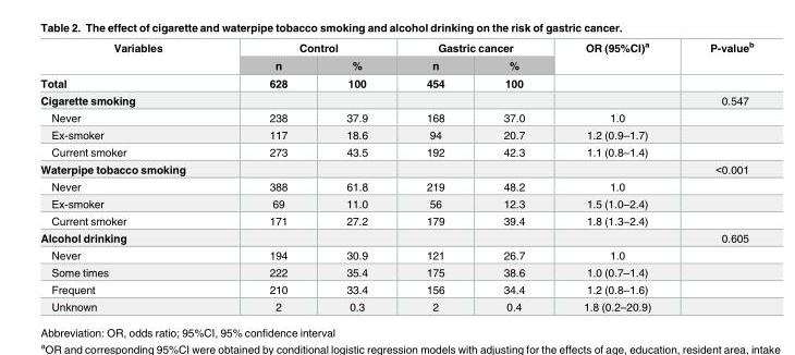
<table><thead><tr><td rowspan="2">Variables</td><td colspan="2">Control</td><td colspan="2">Gastric cancer</td><td rowspan="2">OR (95%CI)<sup>a</sup></td><td rowspan="2">P-value<sup>b</sup></td></tr><tr><td>n</td><td>%</td><td>n</td><td>%</td></tr></thead><tbody><tr><td>Total</td><td>628</td><td>100</td><td>454</td><td>100</td><td></td><td></td></tr><tr><td>Cigarette smoking</td><td></td><td></td><td></td><td></td><td></td><td>0.547</td></tr><tr><td>Never</td><td>238</td><td>37.9</td><td>168</td><td>37.0</td><td>1.0</td><td></td></tr><tr><td>Ex-smoker</td><td>117</td><td>18.6</td><td>94</td><td>20.7</td><td>1.2 (0.9–1.7)</td><td></td></tr><tr><td>Current smoker</td><td>273</td><td>43.5</td><td>192</td><td>42.3</td><td>1.1 (0.8–1.4)</td><td></td></tr><tr><td>Waterpipe tobacco smoking</td><td></td><td></td><td></td><td></td><td></td><td>&lt;0.001</td></tr><tr><td>Never</td><td>388</td><td>61.8</td><td>219</td><td>48.2</td><td>1.0</td><td></td></tr><tr><td>Ex-smoker</td><td>69</td><td>11.0</td><td>56</td><td>12.3</td><td>1.5 (1.0–2.4)</td><td></td></tr><tr><td>Current smoker</td><td>171</td><td>27.2</td><td>179</td><td>39.4</td><td>1.8 (1.3–2.4)</td><td></td></tr><tr><td>Alcohol drinking</td><td></td><td></td><td></td><td></td><td></td><td>0.605</td></tr><tr><td>Never</td><td>194</td><td>30.9</td><td>121</td><td>26.7</td><td>1.0</td><td></td></tr><tr><td>Some times</td><td>222</td><td>35.4</td><td>175</td><td>38.6</td><td>1.0 (0.7–1.4)</td><td></td></tr><tr><td>Frequent</td><td>210</td><td>33.4</td><td>156</td><td>34.4</td><td>1.2 (0.8–1.6)</td><td></td></tr><tr><td>Unknown</td><td>2</td><td>0.3</td><td>2</td><td>0.4</td><td>1.8 (0.2–20.9)</td><td></td></tr></tbody></table>